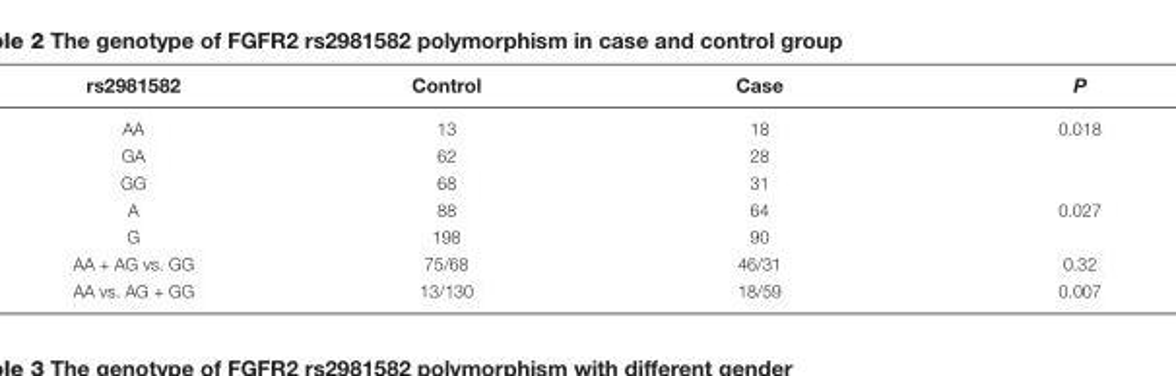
<table><thead><tr><td>rs2981582</td><td>Control</td><td>Case</td><td>P</td></tr></thead><tbody><tr><td>AA</td><td>13</td><td>18</td><td>0.018</td></tr><tr><td>GA</td><td>62</td><td>28</td><td></td></tr><tr><td>GG</td><td>68</td><td>31</td><td></td></tr><tr><td>A</td><td>88</td><td>64</td><td>0.027</td></tr><tr><td>G</td><td>198</td><td>90</td><td></td></tr><tr><td>AA + AG vs. GG</td><td>75/68</td><td>46/31</td><td>0.32</td></tr><tr><td>AA vs. AG + GG</td><td>13/130</td><td>18/59</td><td>0.007</td></tr></tbody></table>